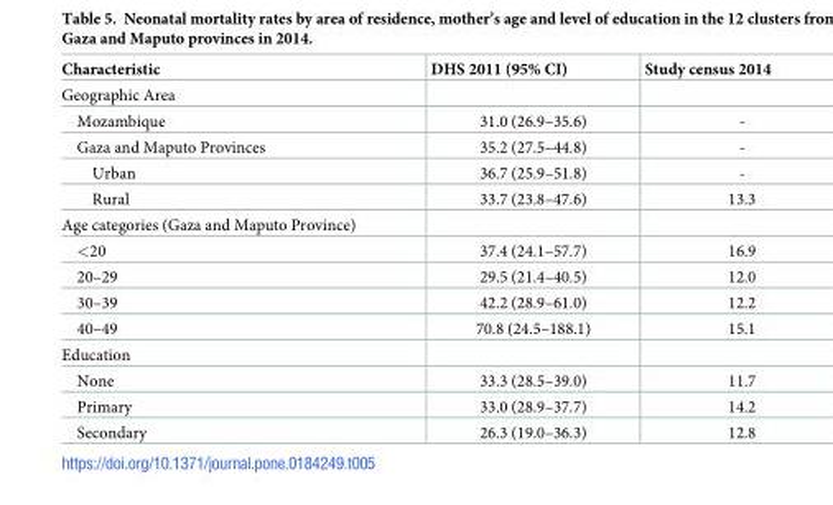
<table><thead><tr><td>Characteristic</td><td>DHS 2011 (95% CI)</td><td>Study census 2014</td></tr></thead><tbody><tr><td colspan="3">Geographic Area</td></tr><tr><td>Mozambique</td><td>31.0 (26.9–35.6)</td><td>-</td></tr><tr><td>Gaza and Maputo Provinces</td><td>35.2 (27.5–44.8)</td><td>-</td></tr><tr><td>Urban</td><td>36.7 (25.9–51.8)</td><td>-</td></tr><tr><td>Rural</td><td>33.7 (23.8–47.6)</td><td>13.3</td></tr><tr><td colspan="3">Age categories (Gaza and Maputo Province)</td></tr><tr><td>&lt;20</td><td>37.4 (24.1–57.7)</td><td>16.9</td></tr><tr><td>20–29</td><td>29.5 (21.4–40.5)</td><td>12.0</td></tr><tr><td>30–39</td><td>42.2 (28.9–61.0)</td><td>12.2</td></tr><tr><td>40–49</td><td>70.8 (24.5–188.1)</td><td>15.1</td></tr><tr><td colspan="3">Education</td></tr><tr><td>None</td><td>33.3 (28.5–39.0)</td><td>11.7</td></tr><tr><td>Primary</td><td>33.0 (28.9–37.7)</td><td>14.2</td></tr><tr><td>Secondary</td><td>26.3 (19.0–36.3)</td><td>12.8</td></tr></tbody></table>